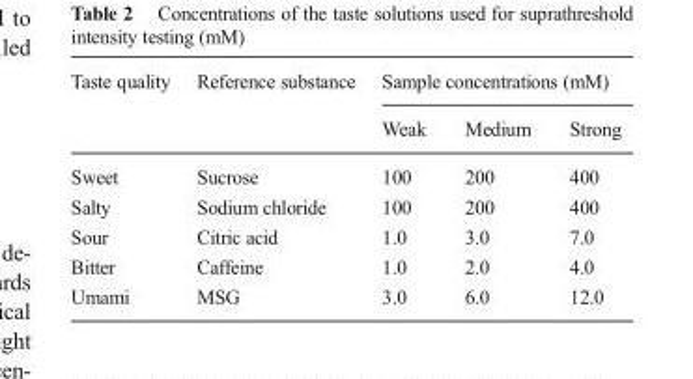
<table><thead><tr><td rowspan="2">Taste quality</td><td rowspan="2">Reference substance</td><td colspan="3">Sample concentrations (mM)</td></tr><tr><td>Weak</td><td>Medium</td><td>Strong</td></tr></thead><tbody><tr><td>Sweet</td><td>Sucrose</td><td>100</td><td>200</td><td>400</td></tr><tr><td>Salty</td><td>Sodium chloride</td><td>100</td><td>200</td><td>400</td></tr><tr><td>Sour</td><td>Citric acid</td><td>1.0</td><td>3.0</td><td>7.0</td></tr><tr><td>Bitter</td><td>Caffeine</td><td>1.0</td><td>2.0</td><td>4.0</td></tr><tr><td>Umami</td><td>MSG</td><td>3.0</td><td>6.0</td><td>12.0</td></tr></tbody></table>